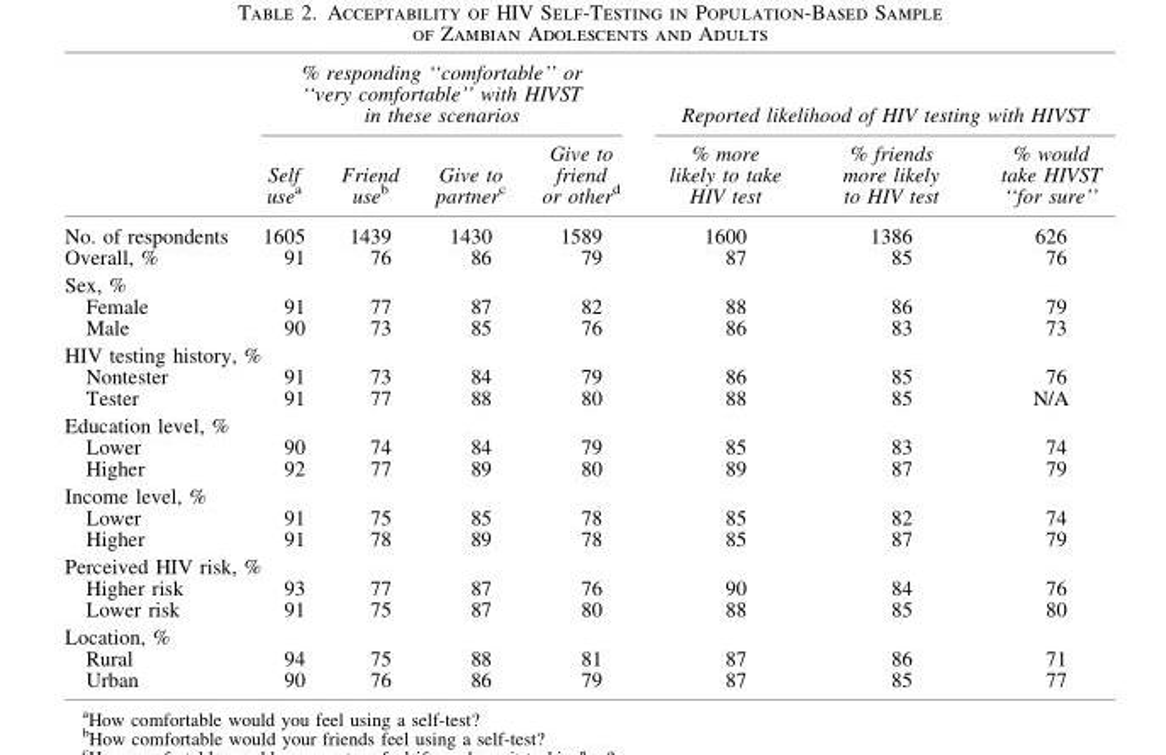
<table><thead><tr><td rowspan="2"></td><td colspan="4">% responding ‘‘comfortable’’ or ‘‘very comfortable’’ with HIVST in these scenarios</td><td colspan="3">Reported likelihood of HIV testing with HIVST</td></tr><tr><td>Self use<sup>a</sup></td><td>Friend use<sup>b</sup></td><td>Give to partner<sup>c</sup></td><td>Give to friend or other<sup>d</sup></td><td>% more likely to take HIV test</td><td>% friends more likely to HIV test</td><td>% would take HIVST ‘‘for sure’’</td></tr></thead><tbody><tr><td>No. of respondents</td><td>1605</td><td>1439</td><td>1430</td><td>1589</td><td>1600</td><td>1386</td><td>626</td></tr><tr><td>Overall, %</td><td>91</td><td>76</td><td>86</td><td>79</td><td>87</td><td>85</td><td>76</td></tr><tr><td colspan="8">Sex, %</td></tr><tr><td>Female</td><td>91</td><td>77</td><td>87</td><td>82</td><td>88</td><td>86</td><td>79</td></tr><tr><td>Male</td><td>90</td><td>73</td><td>85</td><td>76</td><td>86</td><td>83</td><td>73</td></tr><tr><td colspan="8">HIV testing history, %</td></tr><tr><td>Nontester</td><td>91</td><td>73</td><td>84</td><td>79</td><td>86</td><td>85</td><td>76</td></tr><tr><td>Tester</td><td>91</td><td>77</td><td>88</td><td>80</td><td>88</td><td>85</td><td>N/A</td></tr><tr><td colspan="8">Education level, %</td></tr><tr><td>Lower</td><td>90</td><td>74</td><td>84</td><td>79</td><td>85</td><td>83</td><td>74</td></tr><tr><td>Higher</td><td>92</td><td>77</td><td>89</td><td>80</td><td>89</td><td>87</td><td>79</td></tr><tr><td colspan="8">Income level, %</td></tr><tr><td>Lower</td><td>91</td><td>75</td><td>85</td><td>78</td><td>85</td><td>82</td><td>74</td></tr><tr><td>Higher</td><td>91</td><td>78</td><td>89</td><td>78</td><td>85</td><td>87</td><td>79</td></tr><tr><td colspan="8">Perceived HIV risk, %</td></tr><tr><td>Higher risk</td><td>93</td><td>77</td><td>87</td><td>76</td><td>90</td><td>84</td><td>76</td></tr><tr><td>Lower risk</td><td>91</td><td>75</td><td>87</td><td>80</td><td>88</td><td>85</td><td>80</td></tr><tr><td colspan="8">Location, %</td></tr><tr><td>Rural</td><td>94</td><td>75</td><td>88</td><td>81</td><td>87</td><td>86</td><td>71</td></tr><tr><td>Urban</td><td>90</td><td>76</td><td>86</td><td>79</td><td>87</td><td>85</td><td>77</td></tr></tbody></table>